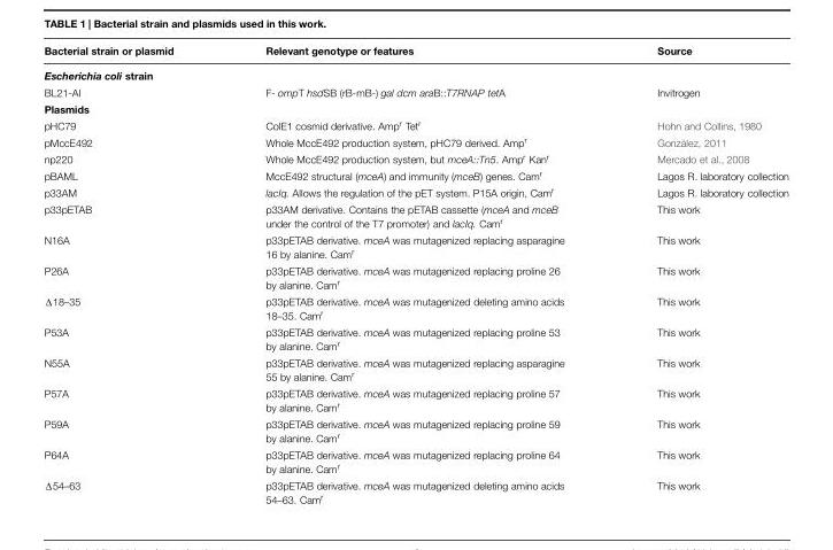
<table><thead><tr><td>Bacterial strain or plasmid</td><td>Relevant genotype or features</td><td>Source</td></tr></thead><tbody><tr><td colspan="3">Escherichia coli strain</td></tr><tr><td>BL21-AI</td><td>F- ompT hsdSB (rB-mB-) gal dcm araB::T7RNAP tetA</td><td>Invitrogen</td></tr><tr><td colspan="3">Plasmids</td></tr><tr><td>pHC79</td><td>ColE1 cosmid derivative. Amp<sup>r</sup> Tet<sup>r</sup></td><td>Hohn and Collins, 1980</td></tr><tr><td>pMccE492</td><td>Whole MccE492 production system, pHC79 derived. Amp<sup>r</sup></td><td>González, 2011</td></tr><tr><td>np220</td><td>Whole MccE492 production system, but mceA::Tn5. Amp<sup>r</sup> Kan<sup>r</sup></td><td>Mercado et al., 2008</td></tr><tr><td>pBAML</td><td>MccE492 structural (mceA) and immunity (mceB) genes. Cam<sup>r</sup></td><td>Lagos R. laboratory collection</td></tr><tr><td>p33AM</td><td>lacIq. Allows the regulation of the pET system. P15A origin, Cam<sup>r</sup></td><td>Lagos R. laboratory collection</td></tr><tr><td>p33pETAB</td><td>p33AM derivative. Contains the pETAB cassette (mceA and mceB under the control of the T7 promoter) and lacIq. Cam<sup>r</sup></td><td>This work</td></tr><tr><td>N16A</td><td>p33pETAB derivative. mceA was mutagenized replacing asparagine 16 by alanine. Cam<sup>r</sup></td><td>This work</td></tr><tr><td>P26A</td><td>p33pETAB derivative. mceA was mutagenized replacing proline 26 by alanine. Cam<sup>r</sup></td><td>This work</td></tr><tr><td>Δ18–35</td><td>p33pETAB derivative. mceA was mutagenized deleting amino acids 18–35. Cam<sup>r</sup></td><td>This work</td></tr><tr><td>P53A</td><td>p33pETAB derivative. mceA was mutagenized replacing proline 53 by alanine. Cam<sup>r</sup></td><td>This work</td></tr><tr><td>N55A</td><td>p33pETAB derivative. mceA was mutagenized replacing asparagine 55 by alanine. Cam<sup>r</sup></td><td>This work</td></tr><tr><td>P57A</td><td>p33pETAB derivative. mceA was mutagenized replacing proline 57 by alanine. Cam<sup>r</sup></td><td>This work</td></tr><tr><td>P59A</td><td>p33pETAB derivative. mceA was mutagenized replacing proline 59 by alanine. Cam<sup>r</sup></td><td>This work</td></tr><tr><td>P64A</td><td>p33pETAB derivative. mceA was mutagenized replacing proline 64 by alanine. Cam<sup>r</sup></td><td>This work</td></tr><tr><td>Δ54–63</td><td>p33pETAB derivative. mceA was mutagenized deleting amino acids 54–63. Cam<sup>r</sup></td><td>This work</td></tr></tbody></table>